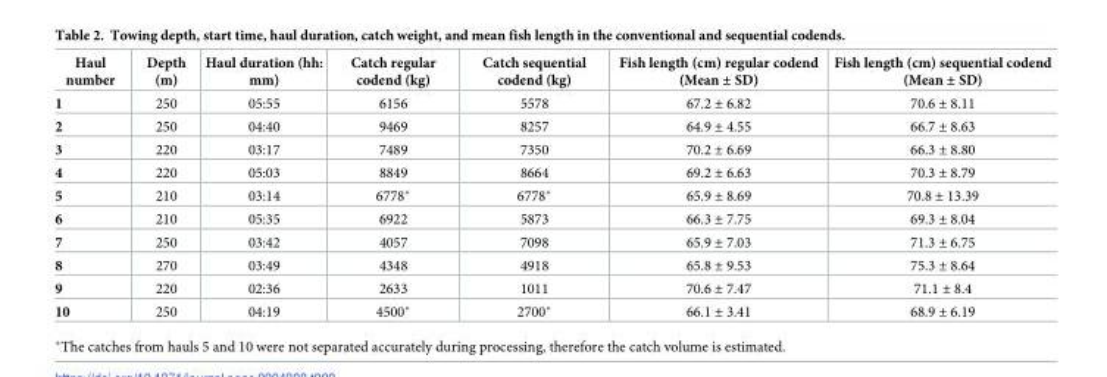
<table><thead><tr><td>Haul number</td><td>Depth (m)</td><td>Haul duration (hh: mm)</td><td>Catch regular codend (kg)</td><td>Catch sequential codend (kg)</td><td>Fish length (cm) regular codend (Mean ± SD)</td><td>Fish length (cm) sequential codend (Mean ± SD)</td></tr></thead><tbody><tr><td>1</td><td>250</td><td>05:55</td><td>6156</td><td>5578</td><td>67.2 ± 6.82</td><td>70.6 ± 8.11</td></tr><tr><td>2</td><td>250</td><td>04:40</td><td>9469</td><td>8257</td><td>64.9 ± 4.55</td><td>66.7 ± 8.63</td></tr><tr><td>3</td><td>220</td><td>03:17</td><td>7489</td><td>7350</td><td>70.2 ± 6.69</td><td>66.3 ± 8.80</td></tr><tr><td>4</td><td>220</td><td>05:03</td><td>8849</td><td>8664</td><td>69.2 ± 6.63</td><td>70.3 ± 8.79</td></tr><tr><td>5</td><td>210</td><td>03:14</td><td>6778*</td><td>6778*</td><td>65.9 ± 8.69</td><td>70.8 ± 13.39</td></tr><tr><td>6</td><td>210</td><td>05:35</td><td>6922</td><td>5873</td><td>66.3 ± 7.75</td><td>69.3 ± 8.04</td></tr><tr><td>7</td><td>250</td><td>03:42</td><td>4057</td><td>7098</td><td>65.9 ± 7.03</td><td>71.3 ± 6.75</td></tr><tr><td>8</td><td>270</td><td>03:49</td><td>4348</td><td>4918</td><td>65.8 ± 9.53</td><td>75.3 ± 8.64</td></tr><tr><td>9</td><td>220</td><td>02:36</td><td>2633</td><td>1011</td><td>70.6 ± 7.47</td><td>71.1 ± 8.4</td></tr><tr><td>10</td><td>250</td><td>04:19</td><td>4500*</td><td>2700*</td><td>66.1 ± 3.41</td><td>68.9 ± 6.19</td></tr></tbody></table>